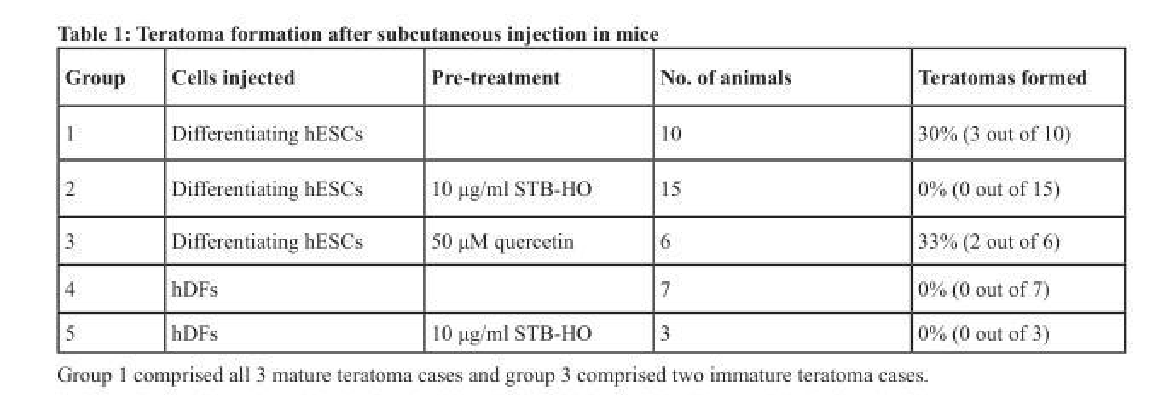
<table><thead><tr><td>Group</td><td>Cells injected</td><td>Pre-treatment</td><td>No. of animals</td><td>Teratomas formed</td></tr></thead><tbody><tr><td>1</td><td>Differentiating hESCs</td><td></td><td>10</td><td>30% (3 out of 10)</td></tr><tr><td>2</td><td>Differentiating hESCs</td><td>10 μg/ml STB-HO</td><td>15</td><td>0% (0 out of 15)</td></tr><tr><td>3</td><td>Differentiating hESCs</td><td>50 μM quercetin</td><td>6</td><td>33% (2 out of 6)</td></tr><tr><td>4</td><td>hDFs</td><td></td><td>7</td><td>0% (0 out of 7)</td></tr><tr><td>5</td><td>hDFs</td><td>10 μg/ml STB-HO</td><td>3</td><td>0% (0 out of 3)</td></tr></tbody></table>